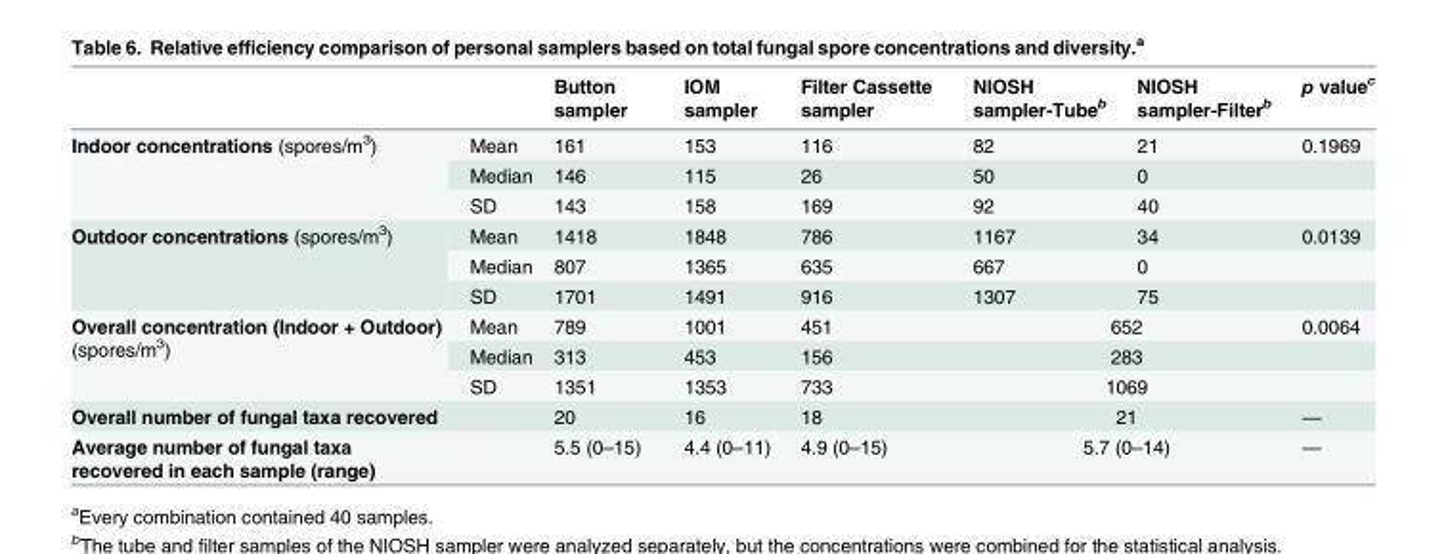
<table><thead><tr><td></td><td></td><td>Button sampler</td><td>IOM sampler</td><td>Filter Cassette sampler</td><td>NIOSH sampler-Tube<sup>b</sup></td><td>NIOSH sampler-Filter<sup>b</sup></td><td>p value<sup>c</sup></td></tr></thead><tbody><tr><td rowspan="3">Indoor concentrations (spores/m<sup>3</sup>)</td><td>Mean</td><td>161</td><td>153</td><td>116</td><td>82</td><td>21</td><td>0.1969</td></tr><tr><td>Median</td><td>146</td><td>115</td><td>26</td><td>50</td><td>0</td><td></td></tr><tr><td>SD</td><td>143</td><td>158</td><td>169</td><td>92</td><td>40</td><td></td></tr><tr><td rowspan="3">Outdoor concentrations (spores/m<sup>3</sup>)</td><td>Mean</td><td>1418</td><td>1848</td><td>786</td><td>1167</td><td>34</td><td>0.0139</td></tr><tr><td>Median</td><td>807</td><td>1365</td><td>635</td><td>667</td><td>0</td><td></td></tr><tr><td>SD</td><td>1701</td><td>1491</td><td>916</td><td>1307</td><td>75</td><td></td></tr><tr><td rowspan="3">Overall concentration (Indoor + Outdoor) (spores/m<sup>3</sup>)</td><td>Mean</td><td>789</td><td>1001</td><td>451</td><td colspan="2">652</td><td>0.0064</td></tr><tr><td>Median</td><td>313</td><td>453</td><td>156</td><td colspan="2">283</td><td></td></tr><tr><td>SD</td><td>1351</td><td>1353</td><td>733</td><td colspan="2">1069</td><td></td></tr><tr><td>Overall number of fungal taxa recovered</td><td></td><td>20</td><td>16</td><td>18</td><td colspan="2">21</td><td>—</td></tr><tr><td>Average number of fungal taxa recovered in each sample (range)</td><td></td><td>5.5 (0–15)</td><td>4.4 (0–11)</td><td>4.9 (0–15)</td><td colspan="2">5.7 (0–14)</td><td>—</td></tr></tbody></table>